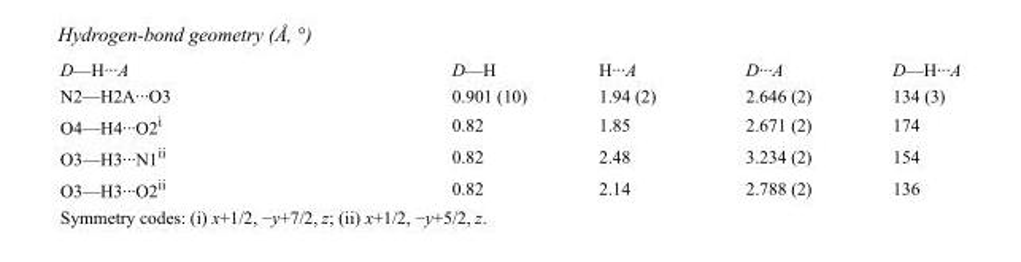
<table><tbody><tr><td>D—H···A</td><td>D—H</td><td>H···A</td><td>D···A</td><td>D—H···A</td></tr><tr><td>N2—H2A···O3</td><td>0.901 (10)</td><td>1.94 (2)</td><td>2.646 (2)</td><td>134 (3)</td></tr><tr><td>O4—H4···O2<sup>i</sup></td><td>0.82</td><td>1.85</td><td>2.671 (2)</td><td>174</td></tr><tr><td>O3—H3···N1<sup>ii</sup></td><td>0.82</td><td>2.48</td><td>3.234 (2)</td><td>154</td></tr><tr><td>O3—H3···O2<sup>ii</sup></td><td>0.82</td><td>2.14</td><td>2.788 (2)</td><td>136</td></tr></tbody></table>